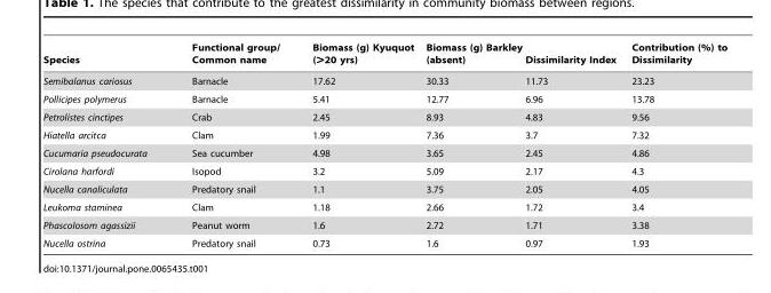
<table><thead><tr><td>Species</td><td>Functional group/ Common name</td><td>Biomass (g) Kyuquot (&gt;20 yrs)</td><td>Biomass (g) Barkley (absent)</td><td>Dissimilarity Index</td><td>Contribution (%) to Dissimilarity</td></tr></thead><tbody><tr><td>Semibalanus cariosus</td><td>Barnacle</td><td>17.62</td><td>30.33</td><td>11.73</td><td>23.23</td></tr><tr><td>Pollicipes polymerus</td><td>Barnacle</td><td>5.41</td><td>12.77</td><td>6.96</td><td>13.78</td></tr><tr><td>Petrolistes cinctipes</td><td>Crab</td><td>2.45</td><td>8.93</td><td>4.83</td><td>9.56</td></tr><tr><td>Hiatella arcitca</td><td>Clam</td><td>1.99</td><td>7.36</td><td>3.7</td><td>7.32</td></tr><tr><td>Cucumaria pseudocurata</td><td>Sea cucumber</td><td>4.98</td><td>3.65</td><td>2.45</td><td>4.86</td></tr><tr><td>Cirolana harfordi</td><td>Isopod</td><td>3.2</td><td>5.09</td><td>2.17</td><td>4.3</td></tr><tr><td>Nucella canaliculata</td><td>Predatory snail</td><td>1.1</td><td>3.75</td><td>2.05</td><td>4.05</td></tr><tr><td>Leukoma staminea</td><td>Clam</td><td>1.18</td><td>2.66</td><td>1.72</td><td>3.4</td></tr><tr><td>Phascolosom agassizii</td><td>Peanut worm</td><td>1.6</td><td>2.72</td><td>1.71</td><td>3.38</td></tr><tr><td>Nucella ostrina</td><td>Predatory snail</td><td>0.73</td><td>1.6</td><td>0.97</td><td>1.93</td></tr></tbody></table>